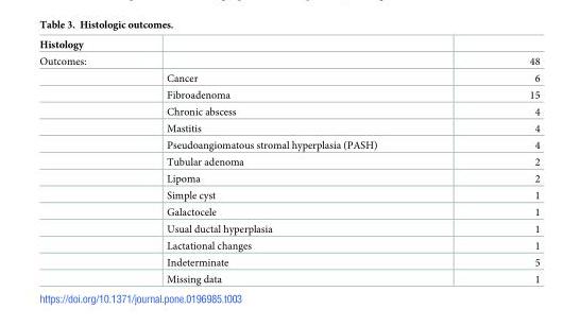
<table><thead><tr><td>Histology</td><td></td><td></td></tr></thead><tbody><tr><td rowspan="14">Outcomes:</td><td></td><td>48</td></tr><tr><td>Cancer</td><td>6</td></tr><tr><td>Fibroadenoma</td><td>15</td></tr><tr><td>Chronic abscess</td><td>4</td></tr><tr><td>Mastitis</td><td>4</td></tr><tr><td>Pseudoangiomatous stromal hyperplasia (PASH)</td><td>4</td></tr><tr><td>Tubular adenoma</td><td>2</td></tr><tr><td>Lipoma</td><td>2</td></tr><tr><td>Simple cyst</td><td>1</td></tr><tr><td>Galactocele</td><td>1</td></tr><tr><td>Usual ductal hyperplasia</td><td>1</td></tr><tr><td>Lactational changes</td><td>1</td></tr><tr><td>Indeterminate</td><td>5</td></tr><tr><td>Missing data</td><td>1</td></tr></tbody></table>